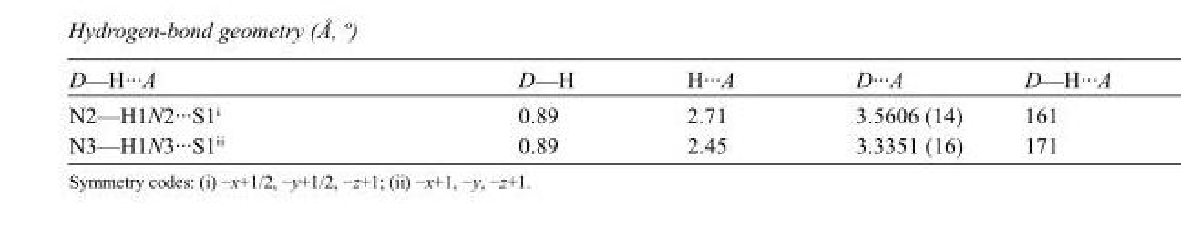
<table><tbody><tr><td>D—H···A</td><td>D—H</td><td>H···A</td><td>D···A</td><td>D—H···A</td></tr><tr><td>N2—H1N2···S1<sup>i</sup></td><td>0.89</td><td>2.71</td><td>3.5606 (14)</td><td>161</td></tr><tr><td>N3—H1N3···S1<sup>ii</sup></td><td>0.89</td><td>2.45</td><td>3.3351 (16)</td><td>171</td></tr></tbody></table>